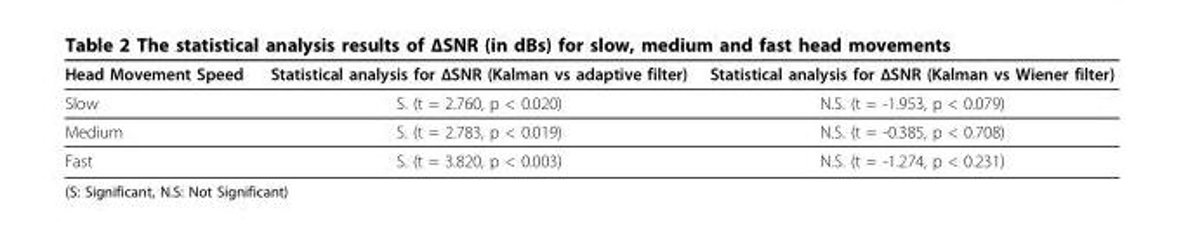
<table><thead><tr><td>Head Movement Speed</td><td>Statistical analysis for ΔSNR (Kalman vs adaptive filter)</td><td>Statistical analysis for ΔSNR (Kalman vs Wiener filter)</td></tr></thead><tbody><tr><td>Slow</td><td>S. (t = 2.760, p &lt; 0.020)</td><td>N.S. (t = -1.953, p &lt; 0.079)</td></tr><tr><td>Medium</td><td>S. (t = 2.783, p &lt; 0.019)</td><td>N.S. (t = -0.385, p &lt; 0.708)</td></tr><tr><td>Fast</td><td>S. (t = 3.820, p &lt; 0.003)</td><td>N.S. (t = -1.274, p &lt; 0.231)</td></tr></tbody></table>